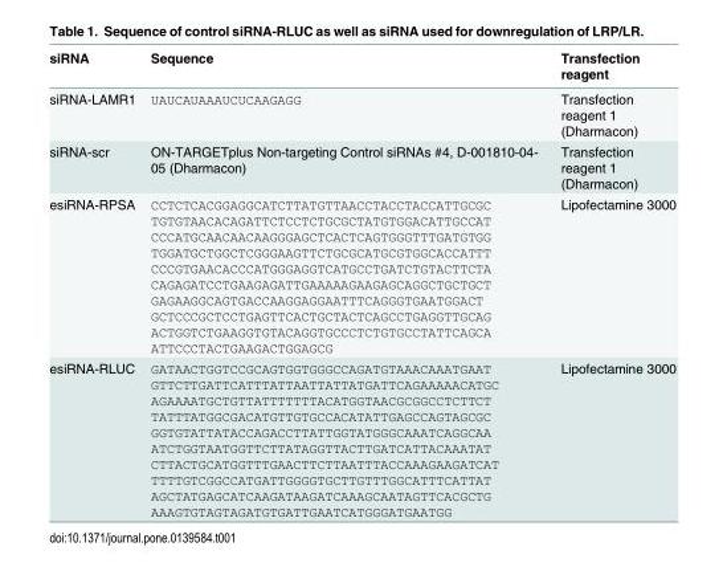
<table><thead><tr><td>siRNA</td><td>Sequence</td><td>Transfection reagent</td></tr></thead><tbody><tr><td>siRNA-LAMR1</td><td>UAUCAUAAAUCUCAAGAGG</td><td>Transfection reagent 1 (Dharmacon)</td></tr><tr><td>siRNA-scr</td><td>ON-TARGETplus Non-targeting Control siRNAs #4, D-001810-04- 05 (Dharmacon)</td><td>Transfection reagent 1 (Dharmacon)</td></tr><tr><td>esiRNA-RPSA</td><td>CCTCTCACGGAGGCATCTTATGTTAACCTACCTACCATTGCGC TGTGTAACACAGATTCTCCTCTGCGCTATGTGGACATTGCCAT CCCATGCAACAACAAGGGAGCTCACTCAGTGGGTTTGATGTGG TGGATGCTGGCTCGGGAAGTTCTGCGCATGCGTGGCACCATTT CCCGTGAACACCCATGGGAGGTCATGCCTGATCTGTACTTCTA CAGAGATCCTGAAGAGATTGAAAAAGAAGAGCAGGCTGCTGCT GAGAAGGCAGTGACCAAGGAGGAATTTCAGGGTGAATGGACT GCTCCCGCTCCTGAGTTCACTGCTACTCAGCCTGAGGTTGCAG ACTGGTCTGAAGGTGTACAGGTGCCCTCTGTGCCTATTCAGCA ATTCCCTACTGAAGACTGGAGCG</td><td>Lipofectamine 3000</td></tr><tr><td>esiRNA-RLUC</td><td>GATAACTGGTCCGCAGTGGTGGGCCAGATGTAAACAAATGAAT GTTCTTGATTCATTTATTAATTATTATGATTCAGAAAAACATGC AGAAAATGCTGTTATTTTTTTACATGGTAACGCGGCCTCTTCT TATTTATGGCGACATGTTGTGCCACATATTGAGCCAGTAGCGC GGTGTATTATACCAGACCTTATTGGTATGGGCAAATCAGGCAA ATCTGGTAATGGTTCTTATAGGTTACTTGATCATTACAAATAT CTTACTGCATGGTTTGAACTTCTTAATTTACCAAAGAAGATCAT TTTTGTCGGCCATGATTGGGGTGCTTGTTTGGCATTTCATTAT AGCTATGAGCATCAAGATAAGATCAAAGCAATAGTTCACGCTG AAAGTGTAGTAGATGTGATTGAATCATGGGATGAATGG</td><td>Lipofectamine 3000</td></tr></tbody></table>